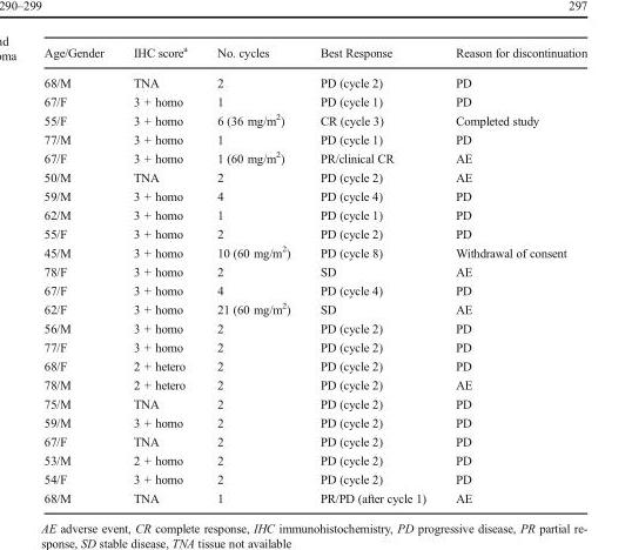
<table><thead><tr><td>Age/Gender</td><td>IHC score<sup>a</sup></td><td>No. cycles</td><td>Best Response</td><td>Reason for discontinuation</td></tr></thead><tbody><tr><td>68/M</td><td>TNA</td><td>2</td><td>PD (cycle 2)</td><td>PD</td></tr><tr><td>67/F</td><td>3 + homo</td><td>1</td><td>PD (cycle 1)</td><td>PD</td></tr><tr><td>55/F</td><td>3 + homo</td><td>6 (36 mg/m<sup>2</sup>)</td><td>CR (cycle 3)</td><td>Completed study</td></tr><tr><td>77/M</td><td>3 + homo</td><td>1</td><td>PD (cycle 1)</td><td>PD</td></tr><tr><td>67/F</td><td>3 + homo</td><td>1 (60 mg/m<sup>2</sup>)</td><td>PR/clinical CR</td><td>AE</td></tr><tr><td>50/M</td><td>TNA</td><td>2</td><td>PD (cycle 2)</td><td>AE</td></tr><tr><td>59/M</td><td>3 + homo</td><td>4</td><td>PD (cycle 4)</td><td>PD</td></tr><tr><td>62/M</td><td>3 + homo</td><td>1</td><td>PD (cycle 1)</td><td>PD</td></tr><tr><td>55/F</td><td>3 + homo</td><td>2</td><td>PD (cycle 2)</td><td>PD</td></tr><tr><td>45/M</td><td>3 + homo</td><td>10 (60 mg/m<sup>2</sup>)</td><td>PD (cycle 8)</td><td>Withdrawal of consent</td></tr><tr><td>78/F</td><td>3 + homo</td><td>2</td><td>SD</td><td>AE</td></tr><tr><td>67/F</td><td>3 + homo</td><td>4</td><td>PD (cycle 4)</td><td>PD</td></tr><tr><td>62/F</td><td>3 + homo</td><td>21 (60 mg/m<sup>2</sup>)</td><td>SD</td><td>AE</td></tr><tr><td>56/M</td><td>3 + homo</td><td>2</td><td>PD (cycle 2)</td><td>PD</td></tr><tr><td>77/F</td><td>3 + homo</td><td>2</td><td>PD (cycle 2)</td><td>PD</td></tr><tr><td>68/F</td><td>2 + hetero</td><td>2</td><td>PD (cycle 2)</td><td>PD</td></tr><tr><td>78/M</td><td>2 + hetero</td><td>2</td><td>PD (cycle 2)</td><td>AE</td></tr><tr><td>75/M</td><td>TNA</td><td>2</td><td>PD (cycle 2)</td><td>PD</td></tr><tr><td>59/M</td><td>3 + homo</td><td>2</td><td>PD (cycle 2)</td><td>PD</td></tr><tr><td>67/F</td><td>TNA</td><td>2</td><td>PD (cycle 2)</td><td>PD</td></tr><tr><td>53/M</td><td>2 + homo</td><td>2</td><td>PD (cycle 2)</td><td>PD</td></tr><tr><td>54/F</td><td>3 + homo</td><td>2</td><td>PD (cycle 2)</td><td>PD</td></tr><tr><td>68/M</td><td>TNA</td><td>1</td><td>PR/PD (after cycle 1)</td><td>AE</td></tr></tbody></table>